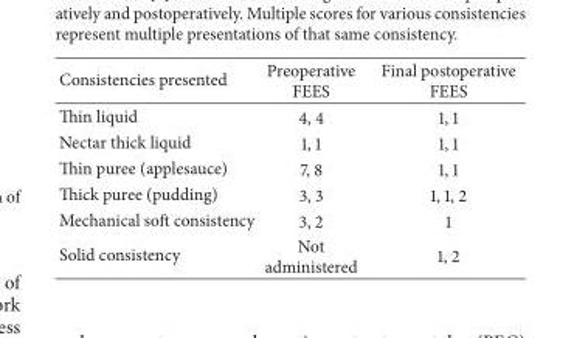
<table><thead><tr><td>Consistencies presented</td><td>Preoperative FEES</td><td>Final postoperative FEES</td></tr></thead><tbody><tr><td>Thin liquid</td><td>4, 4</td><td>1, 1</td></tr><tr><td>Nectar thick liquid</td><td>1, 1</td><td>1, 1</td></tr><tr><td>Thin puree (applesauce)</td><td>7, 8</td><td>1, 1</td></tr><tr><td>Thick puree (pudding)</td><td>3, 3</td><td>1, 1, 2</td></tr><tr><td>Mechanical soft consistency</td><td>3, 2</td><td>1</td></tr><tr><td>Solid consistency</td><td>Not administered</td><td>1, 2</td></tr></tbody></table>